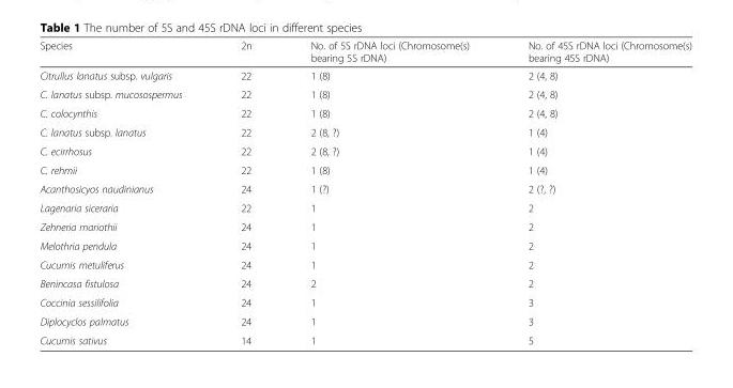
<table><thead><tr><td>Species</td><td>2n</td><td>No. of 5S rDNA loci (Chromosome(s) bearing 5S rDNA)</td><td>No. of 45S rDNA loci (Chromosome(s) bearing 45S rDNA)</td></tr></thead><tbody><tr><td>Citrullus lanatus subsp. vulgaris</td><td>22</td><td>1 (8)</td><td>2 (4, 8)</td></tr><tr><td>C. lanatus subsp. mucosospermus</td><td>22</td><td>1 (8)</td><td>2 (4, 8)</td></tr><tr><td>C. colocynthis</td><td>22</td><td>1 (8)</td><td>2 (4, 8)</td></tr><tr><td>C. lanatus subsp. lanatus</td><td>22</td><td>2 (8, ?)</td><td>1 (4)</td></tr><tr><td>C. ecirrhosus</td><td>22</td><td>2 (8, ?)</td><td>1 (4)</td></tr><tr><td>C. rehmii</td><td>22</td><td>1 (8)</td><td>1 (4)</td></tr><tr><td>Acanthosicyos naudinianus</td><td>24</td><td>1 (?)</td><td>2 (?, ?)</td></tr><tr><td>Lagenaria siceraria</td><td>22</td><td>1</td><td>2</td></tr><tr><td>Zehneria mariothii</td><td>24</td><td>1</td><td>2</td></tr><tr><td>Melothria pendula</td><td>24</td><td>1</td><td>2</td></tr><tr><td>Cucumis metuliferus</td><td>24</td><td>1</td><td>2</td></tr><tr><td>Benincasa fistulosa</td><td>24</td><td>2</td><td>2</td></tr><tr><td>Coccinia sessilifolia</td><td>24</td><td>1</td><td>3</td></tr><tr><td>Diplocyclos palmatus</td><td>24</td><td>1</td><td>3</td></tr><tr><td>Cucumis sativus</td><td>14</td><td>1</td><td>5</td></tr></tbody></table>